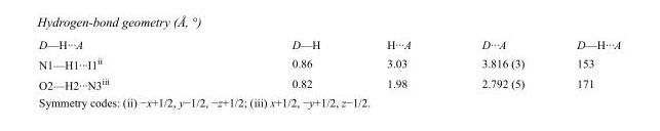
<table><tbody><tr><td>D—H···A</td><td>D—H</td><td>H···A</td><td>D···A</td><td>D—H···A</td></tr><tr><td>N1—H1···I1<sup>ii</sup></td><td>0.86</td><td>3.03</td><td>3.816 (3)</td><td>153</td></tr><tr><td>O2—H2···N3<sup>iii</sup></td><td>0.82</td><td>1.98</td><td>2.792 (5)</td><td>171</td></tr></tbody></table>